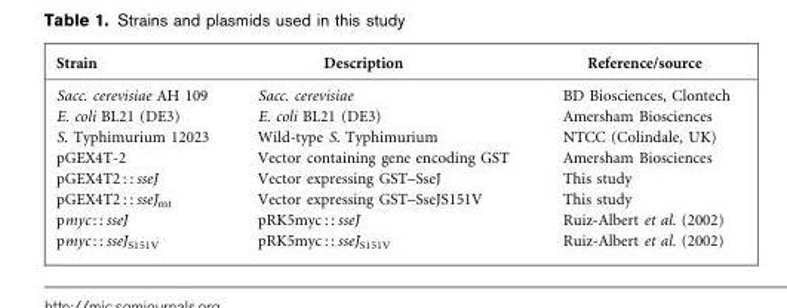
<table><thead><tr><td>Strain</td><td>Description</td><td>Reference/source</td></tr></thead><tbody><tr><td>Sacc. cerevisiae AH 109</td><td>Sacc. cerevisiae</td><td>BD Biosciences, Clontech</td></tr><tr><td>E. coli BL21 (DE3)</td><td>E. coli BL21 (DE3)</td><td>Amersham Biosciences</td></tr><tr><td>S. Typhimurium 12023</td><td>Wild-type S. Typhimurium</td><td>NTCC (Colindale, UK)</td></tr><tr><td>pGEX4T-2</td><td>Vector containing gene encoding GST</td><td>Amersham Biosciences</td></tr><tr><td>pGEX4T2 : : sseJ</td><td>Vector expressing GST–SseJ</td><td>This study</td></tr><tr><td>pGEX4T2 : : sseJ<sub>mt</sub></td><td>Vector expressing GST–SseJS151V</td><td>This study</td></tr><tr><td>pmyc : : sseJ</td><td>pRK5myc : : sseJ</td><td>Ruiz-Albert et al. (2002)</td></tr><tr><td>pmyc : : sseJ<sub>S151V</sub></td><td>pRK5myc : : sseJ<sub>S151V</sub></td><td>Ruiz-Albert et al. (2002)</td></tr></tbody></table>